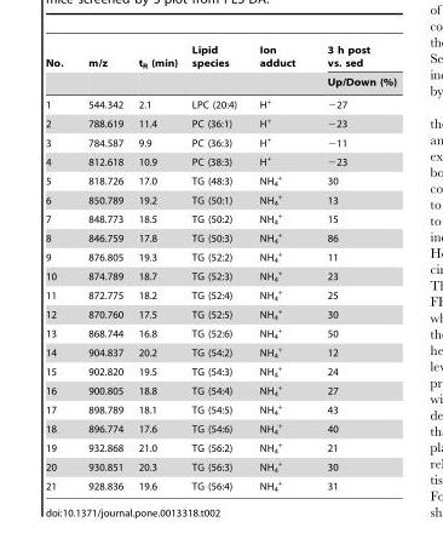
<table><thead><tr><td rowspan="2">No.</td><td rowspan="2">m/z</td><td rowspan="2">t<sub>R</sub> (min)</td><td rowspan="2">Lipid species</td><td rowspan="2">Ion adduct</td><td rowspan="2">3 h post vs. sed Up/Down (%)</td></tr><tr></tr></thead><tbody><tr><td>1</td><td>544.342</td><td>2.1</td><td>LPC (20:4)</td><td>H<sup>+</sup></td><td>−27</td></tr><tr><td>2</td><td>788.619</td><td>11.4</td><td>PC (36:1)</td><td>H<sup>+</sup></td><td>−23</td></tr><tr><td>3</td><td>784.587</td><td>9.9</td><td>PC (36:3)</td><td>H<sup>+</sup></td><td>−11</td></tr><tr><td>4</td><td>812.618</td><td>10.9</td><td>PC (38:3)</td><td>H<sup>+</sup></td><td>−23</td></tr><tr><td>5</td><td>818.726</td><td>17.0</td><td>TG (48:3)</td><td>NH<sub>4</sub> <sup>+</sup></td><td>30</td></tr><tr><td>6</td><td>850.789</td><td>19.2</td><td>TG (50:1)</td><td>NH<sub>4</sub> <sup>+</sup></td><td>13</td></tr><tr><td>7</td><td>848.773</td><td>18.5</td><td>TG (50:2)</td><td>NH<sub>4</sub> <sup>+</sup></td><td>15</td></tr><tr><td>8</td><td>846.759</td><td>17.8</td><td>TG (50:3)</td><td>NH<sub>4</sub> <sup>+</sup></td><td>86</td></tr><tr><td>9</td><td>876.805</td><td>19.3</td><td>TG (52:2)</td><td>NH<sub>4</sub> <sup>+</sup></td><td>11</td></tr><tr><td>10</td><td>874.789</td><td>18.7</td><td>TG (52:3)</td><td>NH<sub>4</sub> <sup>+</sup></td><td>23</td></tr><tr><td>11</td><td>872.775</td><td>18.2</td><td>TG (52:4)</td><td>NH<sub>4</sub> <sup>+</sup></td><td>25</td></tr><tr><td>12</td><td>870.760</td><td>17.5</td><td>TG (52:5)</td><td>NH<sub>4</sub> <sup>+</sup></td><td>30</td></tr><tr><td>13</td><td>868.744</td><td>16.8</td><td>TG (52:6)</td><td>NH<sub>4</sub> <sup>+</sup></td><td>50</td></tr><tr><td>14</td><td>904.837</td><td>20.2</td><td>TG (54:2)</td><td>NH<sub>4</sub> <sup>+</sup></td><td>12</td></tr><tr><td>15</td><td>902.820</td><td>19.5</td><td>TG (54:3)</td><td>NH<sub>4</sub> <sup>+</sup></td><td>24</td></tr><tr><td>16</td><td>900.805</td><td>18.8</td><td>TG (54:4)</td><td>NH<sub>4</sub> <sup>+</sup></td><td>27</td></tr><tr><td>17</td><td>898.789</td><td>18.1</td><td>TG (54:5)</td><td>NH<sub>4</sub> <sup>+</sup></td><td>43</td></tr><tr><td>18</td><td>896.774</td><td>17.6</td><td>TG (54:6)</td><td>NH<sub>4</sub> <sup>+</sup></td><td>40</td></tr><tr><td>19</td><td>932.868</td><td>21.0</td><td>TG (56:2)</td><td>NH<sub>4</sub> <sup>+</sup></td><td>21</td></tr><tr><td>20</td><td>930.851</td><td>20.3</td><td>TG (56:3)</td><td>NH<sub>4</sub> <sup>+</sup></td><td>30</td></tr><tr><td>21</td><td>928.836</td><td>19.6</td><td>TG (56:4)</td><td>NH<sub>4</sub> <sup>+</sup></td><td>31</td></tr></tbody></table>